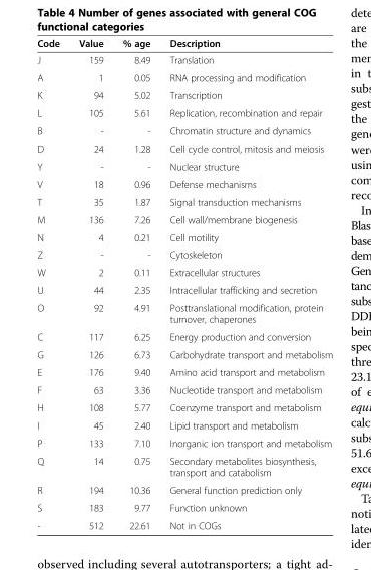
<table><thead><tr><td>Code</td><td>Value</td><td>% age</td><td>Description</td></tr></thead><tbody><tr><td>J</td><td>159</td><td>8.49</td><td>Translation</td></tr><tr><td>A</td><td>1</td><td>0.05</td><td>RNA processing and modification</td></tr><tr><td>K</td><td>94</td><td>5.02</td><td>Transcription</td></tr><tr><td>L</td><td>105</td><td>5.61</td><td>Replication, recombination and repair</td></tr><tr><td>B</td><td>-</td><td>-</td><td>Chromatin structure and dynamics</td></tr><tr><td>D</td><td>24</td><td>1.28</td><td>Cell cycle control, mitosis and meiosis</td></tr><tr><td>Y</td><td>-</td><td>-</td><td>Nuclear structure</td></tr><tr><td>V</td><td>18</td><td>0.96</td><td>Defense mechanisms</td></tr><tr><td>T</td><td>35</td><td>1.87</td><td>Signal transduction mechanisms</td></tr><tr><td>M</td><td>136</td><td>7.26</td><td>Cell wall/membrane biogenesis</td></tr><tr><td>N</td><td>4</td><td>0.21</td><td>Cell motility</td></tr><tr><td>Z</td><td>-</td><td>-</td><td>Cytoskeleton</td></tr><tr><td>W</td><td>2</td><td>0.11</td><td>Extracellular structures</td></tr><tr><td>U</td><td>44</td><td>2.35</td><td>Intracellular trafficking and secretion</td></tr><tr><td>O</td><td>92</td><td>4.91</td><td>Posttranslational modification, protein turnover, chaperones</td></tr><tr><td>C</td><td>117</td><td>6.25</td><td>Energy production and conversion</td></tr><tr><td>G</td><td>126</td><td>6.73</td><td>Carbohydrate transport and metabolism</td></tr><tr><td>E</td><td>176</td><td>9.40</td><td>Amino acid transport and metabolism</td></tr><tr><td>F</td><td>63</td><td>3.36</td><td>Nucleotide transport and metabolism</td></tr><tr><td>H</td><td>108</td><td>5.77</td><td>Coenzyme transport and metabolism</td></tr><tr><td>I</td><td>45</td><td>2.40</td><td>Lipid transport and metabolism</td></tr><tr><td>P</td><td>133</td><td>7.10</td><td>Inorganic ion transport and metabolism</td></tr><tr><td>Q</td><td>14</td><td>0.75</td><td>Secondary metabolites biosynthesis, transport and catabolism</td></tr><tr><td>R</td><td>194</td><td>10.36</td><td>General function prediction only</td></tr><tr><td>S</td><td>183</td><td>9.77</td><td>Function unknown</td></tr><tr><td>-</td><td>512</td><td>22.61</td><td>Not in COGs</td></tr></tbody></table>